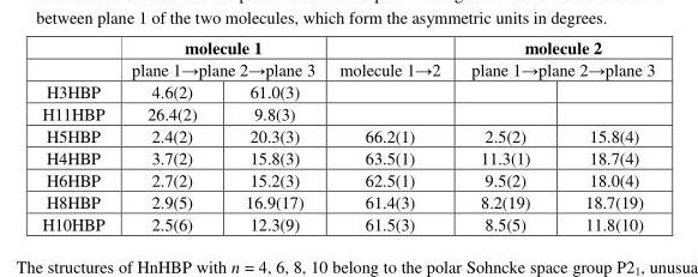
<table><thead><tr><td rowspan="3">H3HBP</td><td rowspan="2" colspan="2">molecule 1 plane 1→plane 2→plane 3</td><td rowspan="3">molecule 1→2</td><td rowspan="2" colspan="2">molecule 2 plane 1→plane 2→plane 3</td></tr><tr></tr><tr><td>4.6(2)</td><td>61.0(3)</td><td></td><td></td></tr></thead><tbody><tr><td>H11HBP</td><td>26.4(2)</td><td>9.8(3)</td><td></td><td></td><td></td></tr><tr><td>H5HBP</td><td>2.4(2)</td><td>20.3(3)</td><td>66.2(1)</td><td>2.5(2)</td><td>15.8(4)</td></tr><tr><td>H4HBP</td><td>3.7(2)</td><td>15.8(3)</td><td>63.5(1)</td><td>11.3(1)</td><td>18.7(4)</td></tr><tr><td>H6HBP</td><td>2.7(2)</td><td>15.2(3)</td><td>62.5(1)</td><td>9.5(2)</td><td>18.0(4)</td></tr><tr><td>H8HBP</td><td>2.9(5)</td><td>16.9(17)</td><td>61.4(3)</td><td>8.2(19)</td><td>18.7(19)</td></tr><tr><td>H10HBP</td><td>2.5(6)</td><td>12.3(9)</td><td>61.5(3)</td><td>8.5(5)</td><td>11.8(10)</td></tr></tbody></table>